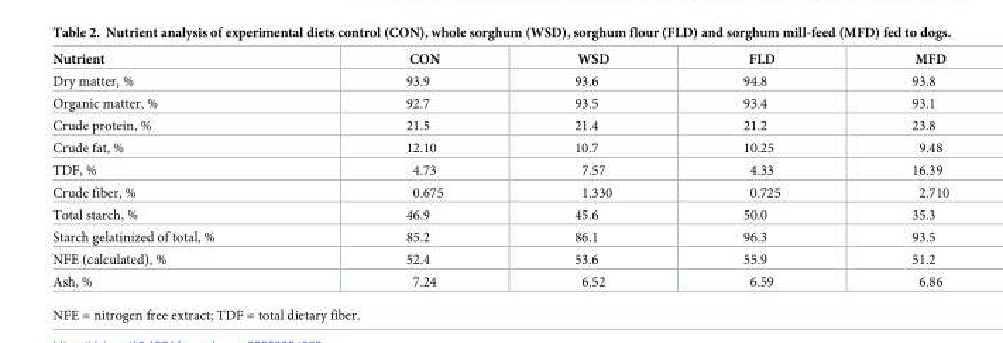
<table><thead><tr><td>Nutrient</td><td>CON</td><td>WSD</td><td>FLD</td><td>MFD</td></tr></thead><tbody><tr><td>Dry matter, %</td><td>93.9</td><td>93.6</td><td>94.8</td><td>93.8</td></tr><tr><td>Organic matter, %</td><td>92.7</td><td>93.5</td><td>93.4</td><td>93.1</td></tr><tr><td>Crude protein, %</td><td>21.5</td><td>21.4</td><td>21.2</td><td>23.8</td></tr><tr><td>Crude fat, %</td><td>12.10</td><td>10.7</td><td>10.25</td><td>9.48</td></tr><tr><td>TDF, %</td><td>4.73</td><td>7.57</td><td>4.33</td><td>16.39</td></tr><tr><td>Crude fiber, %</td><td>0.675</td><td>1.330</td><td>0.725</td><td>2.710</td></tr><tr><td>Total starch, %</td><td>46.9</td><td>45.6</td><td>50.0</td><td>35.3</td></tr><tr><td>Starch gelatinized of total, %</td><td>85.2</td><td>86.1</td><td>96.3</td><td>93.5</td></tr><tr><td>NFE (calculated), %</td><td>52.4</td><td>53.6</td><td>55.9</td><td>51.2</td></tr><tr><td>Ash, %</td><td>7.24</td><td>6.52</td><td>6.59</td><td>6.86</td></tr></tbody></table>